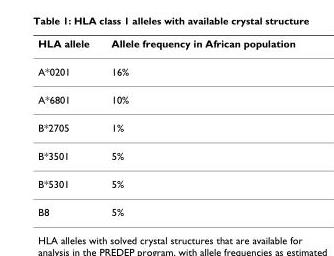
<table><thead><tr><td>HLA allele</td><td>Allele frequency in African population</td></tr></thead><tbody><tr><td>A*0201</td><td>16%</td></tr><tr><td>A*6801</td><td>10%</td></tr><tr><td>B*2705</td><td>1%</td></tr><tr><td>B*3501</td><td>5%</td></tr><tr><td>B*5301</td><td>5%</td></tr><tr><td>B8</td><td>5%</td></tr></tbody></table>